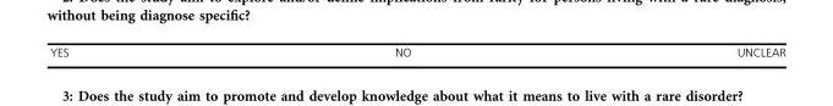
<table><tbody><tr><td>⁭YES</td><td>NO</td><td>UNCLEAR</td></tr></tbody></table>